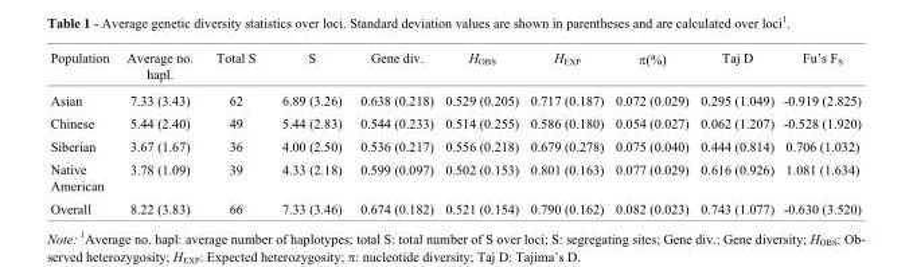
<table><thead><tr><td>Population</td><td>Average no. hapl.</td><td>Total S</td><td>S</td><td>Gene div.</td><td>H<sub>OBS</sub></td><td>H<sub>EXP</sub></td><td>π(%)</td><td>Taj D</td><td>Fu’s F<sub>S</sub></td></tr></thead><tbody><tr><td>Asian</td><td>7.33 (3.43)</td><td>62</td><td>6.89 (3.26)</td><td>0.638 (0.218)</td><td>0.529 (0.205)</td><td>0.717 (0.187)</td><td>0.072 (0.029)</td><td>0.295 (1.049)</td><td>-0.919 (2.825)</td></tr><tr><td>Chinese</td><td>5.44 (2.40)</td><td>49</td><td>5.44 (2.83)</td><td>0.544 (0.233)</td><td>0.514 (0.255)</td><td>0.586 (0.180)</td><td>0.054 (0.027)</td><td>0.062 (1.207)</td><td>-0.528 (1.920)</td></tr><tr><td>Siberian</td><td>3.67 (1.67)</td><td>36</td><td>4.00 (2.50)</td><td>0.536 (0.217)</td><td>0.556 (0.218)</td><td>0.679 (0.278)</td><td>0.075 (0.040)</td><td>0.444 (0.814)</td><td>0.706 (1.032)</td></tr><tr><td>Native American</td><td>3.78 (1.09)</td><td>39</td><td>4.33 (2.18)</td><td>0.599 (0.097)</td><td>0.502 (0.153)</td><td>0.801 (0.163)</td><td>0.077 (0.029)</td><td>0.616 (0.926)</td><td>1.081 (1.634)</td></tr><tr><td>Overall</td><td>8.22 (3.83)</td><td>66</td><td>7.33 (3.46)</td><td>0.674 (0.182)</td><td>0.521 (0.154)</td><td>0.790 (0.162)</td><td>0.082 (0.023)</td><td>0.743 (1.077)</td><td>-0.630 (3.520)</td></tr></tbody></table>